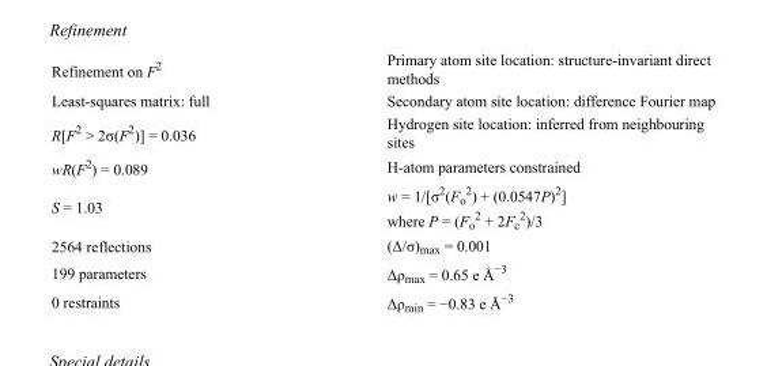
<table><tbody><tr><td>Refinement on F<sup>2</sup></td><td>Primary atom site location: structure-invariant direct methods</td></tr><tr><td>Least-squares matrix: full</td><td>Secondary atom site location: difference Fourier map</td></tr><tr><td>R[F<sup>2</sup> &gt; 2σ(F<sup>2</sup>)] = 0.036</td><td>Hydrogen site location: inferred from neighbouring sites</td></tr><tr><td>wR(F<sup>2</sup>) = 0.089</td><td>H-atom parameters constrained</td></tr><tr><td>S = 1.03</td><td>w = 1/[σ<sup>2</sup>(F<sub>o</sub> <sup>2</sup>) + (0.0547P)<sup>2</sup>] where P = (F<sub>o</sub> <sup>2</sup> + 2F<sub>c</sub> <sup>2</sup>)/3</td></tr><tr><td>2564 reflections</td><td>(Δ/σ)<sub>max</sub> = 0.001</td></tr><tr><td>199 parameters</td><td>Δρ<sub>max</sub> = 0.65 e Å<sup>−3</sup></td></tr><tr><td>0 restraints</td><td>Δρ<sub>min</sub> = −0.83 e Å<sup>−3</sup></td></tr></tbody></table>